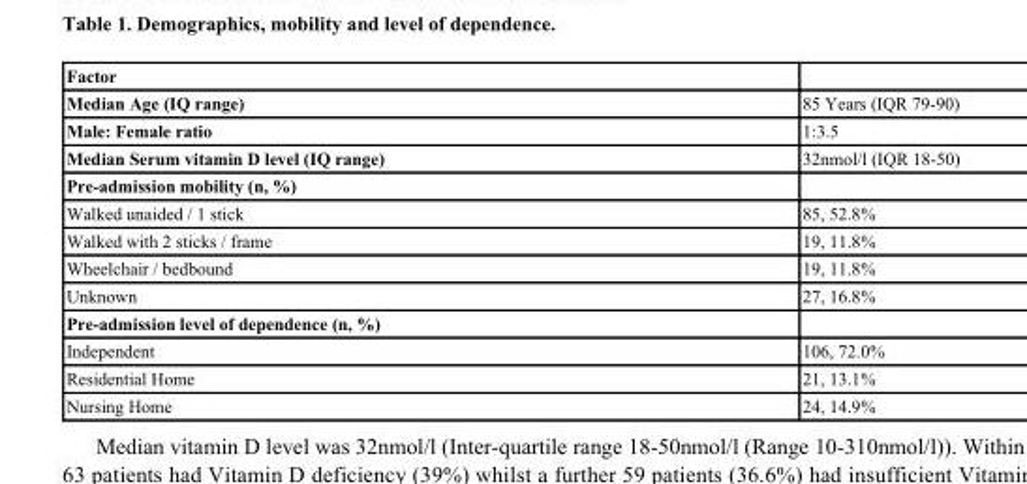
<table><thead><tr><td>Factor</td><td></td></tr></thead><tbody><tr><td>Median Age (IQ range)</td><td>85 Years (IQR 79-90)</td></tr><tr><td>Male: Female ratio</td><td>1:3.5</td></tr><tr><td>Median Serum vitamin D level (IQ range)</td><td>32nmol/l (IQR 18-50)</td></tr><tr><td colspan="2">Pre-admission mobility (n, %)</td></tr><tr><td>Walked unaided / 1 stick</td><td>85, 52.8%</td></tr><tr><td>Walked with 2 sticks / frame</td><td>19, 11.8%</td></tr><tr><td>Wheelchair / bedbound</td><td>19, 11.8%</td></tr><tr><td>Unknown</td><td>27, 16.8%</td></tr><tr><td colspan="2">Pre-admission level of dependence (n, %)</td></tr><tr><td>Independent</td><td>106, 72.0%</td></tr><tr><td>Residential Home</td><td>21, 13.1%</td></tr><tr><td>Nursing Home</td><td>24, 14.9%</td></tr></tbody></table>